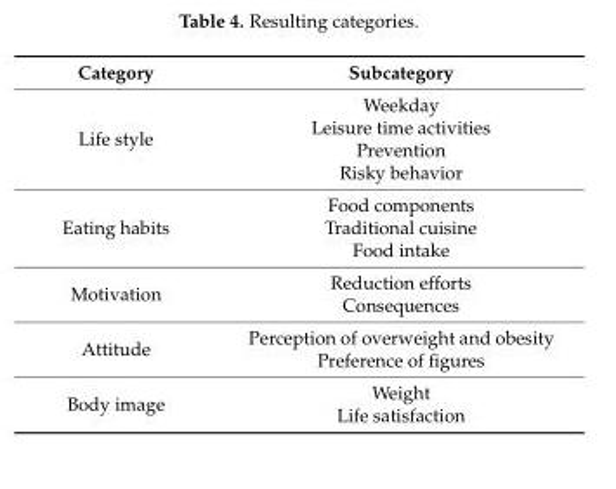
<table><thead><tr><td>Category</td><td>Subcategory</td></tr></thead><tbody><tr><td>Life style</td><td>Weekday Leisure time activities Prevention Risky behavior</td></tr><tr><td>Eating habits</td><td>Food components Traditional cuisine Food intake</td></tr><tr><td>Motivation</td><td>Reduction efforts Consequences</td></tr><tr><td>Attitude</td><td>Perception of overweight and obesity Preference of figures</td></tr><tr><td>Body image</td><td>Weight Life satisfaction</td></tr></tbody></table>